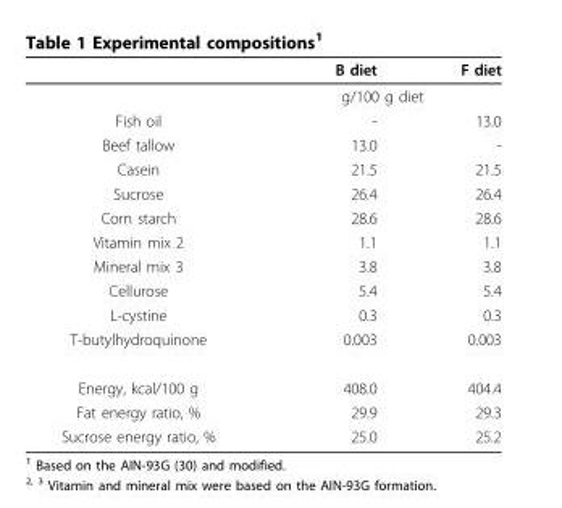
<table><thead><tr><td></td><td>B diet</td><td>F diet</td></tr></thead><tbody><tr><td></td><td colspan="2">g/100 g diet</td></tr><tr><td>Fish oil</td><td>-</td><td>13.0</td></tr><tr><td>Beef tallow</td><td>13.0</td><td>-</td></tr><tr><td>Casein</td><td>21.5</td><td>21.5</td></tr><tr><td>Sucrose</td><td>26.4</td><td>26.4</td></tr><tr><td>Corn starch</td><td>28.6</td><td>28.6</td></tr><tr><td>Vitamin mix 2</td><td>1.1</td><td>1.1</td></tr><tr><td>Mineral mix 3</td><td>3.8</td><td>3.8</td></tr><tr><td>Cellurose</td><td>5.4</td><td>5.4</td></tr><tr><td>L-cystine</td><td>0.3</td><td>0.3</td></tr><tr><td>T-butylhydroquinone</td><td>0.003</td><td>0.003</td></tr><tr><td>Energy, kcal/100 g</td><td>408.0</td><td>404.4</td></tr><tr><td>Fat energy ratio, %</td><td>29.9</td><td>29.3</td></tr><tr><td>Sucrose energy ratio, %</td><td>25.0</td><td>25.2</td></tr></tbody></table>